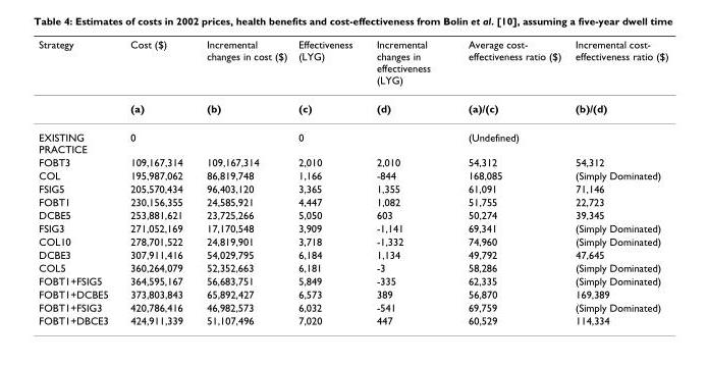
<table><thead><tr><td>Strategy</td><td>Cost ($)</td><td>Incremental changes in cost ($)</td><td>Effectiveness (LYG)</td><td>Incremental changes in effectiveness (LYG)</td><td>Average cost- effectiveness ratio ($)</td><td>Incremental cost- effectiveness ratio ($)</td></tr></thead><tbody><tr><td></td><td>(a)</td><td>(b)</td><td>(c)</td><td>(d)</td><td>(a)/(c)</td><td>(b)/(d)</td></tr><tr><td>EXISTING PRACTICE</td><td>0</td><td></td><td>0</td><td></td><td>(Undefined)</td><td></td></tr><tr><td>FOBT3</td><td>109,167,314</td><td>109,167,314</td><td>2,010</td><td>2,010</td><td>54,312</td><td>54,312</td></tr><tr><td>COL</td><td>195,987,062</td><td>86,819,748</td><td>1,166</td><td>-844</td><td>168,085</td><td>(Simply Dominated)</td></tr><tr><td>FSIG5</td><td>205,570,434</td><td>96,403,120</td><td>3,365</td><td>1,355</td><td>61,091</td><td>71,146</td></tr><tr><td>FOBT1</td><td>230,156,355</td><td>24,585,921</td><td>4,447</td><td>1,082</td><td>51,755</td><td>22,723</td></tr><tr><td>DCBE5</td><td>253,881,621</td><td>23,725,266</td><td>5,050</td><td>603</td><td>50,274</td><td>39,345</td></tr><tr><td>FSIG3</td><td>271,052,169</td><td>17,170,548</td><td>3,909</td><td>-1,141</td><td>69,341</td><td>(Simply Dominated)</td></tr><tr><td>COL10</td><td>278,701,522</td><td>24,819,901</td><td>3,718</td><td>-1,332</td><td>74,960</td><td>(Simply Dominated)</td></tr><tr><td>DCBE3</td><td>307,911,416</td><td>54,029,795</td><td>6,184</td><td>1,134</td><td>49,792</td><td>47,645</td></tr><tr><td>COL5</td><td>360,264,079</td><td>52,352,663</td><td>6,181</td><td>-3</td><td>58,286</td><td>(Simply Dominated)</td></tr><tr><td>FOBT1+FSIG5</td><td>364,595,167</td><td>56,683,751</td><td>5,849</td><td>-335</td><td>62,335</td><td>(Simply Dominated)</td></tr><tr><td>FOBT1+DCBE5</td><td>373,803,843</td><td>65,892,427</td><td>6,573</td><td>389</td><td>56,870</td><td>169,389</td></tr><tr><td>FOBT1+FSIG3</td><td>420,786,416</td><td>46,982,573</td><td>6,032</td><td>-541</td><td>69,759</td><td>(Simply Dominated)</td></tr><tr><td>FOBT1+DBCE3</td><td>424,911,339</td><td>51,107,496</td><td>7,020</td><td>447</td><td>60,529</td><td>114,334</td></tr></tbody></table>